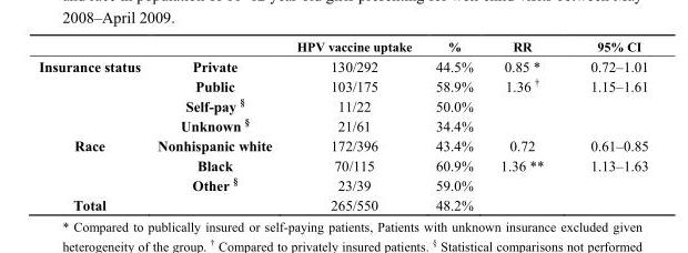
<table><thead><tr><td></td><td></td><td>HPV vaccine uptake</td><td>%</td><td>RR</td><td>95% CI</td></tr></thead><tbody><tr><td rowspan="4">Insurance status</td><td>Private</td><td>130/292</td><td>44.5%</td><td>0.85 *</td><td>0.72–1.01</td></tr><tr><td>Public</td><td>103/175</td><td>58.9%</td><td>1.36 <sup>†</sup></td><td>1.15–1.61</td></tr><tr><td>Self-pay <sup>§</sup></td><td>11/22</td><td>50.0%</td><td></td><td></td></tr><tr><td>Unknown <sup>§</sup></td><td>21/61</td><td>34.4%</td><td></td><td></td></tr><tr><td rowspan="3">Race</td><td>Nonhispanic white</td><td>172/396</td><td>43.4%</td><td>0.72</td><td>0.61–0.85</td></tr><tr><td>Black</td><td>70/115</td><td>60.9%</td><td>1.36 **</td><td>1.13–1.63</td></tr><tr><td>Other <sup>§</sup></td><td>23/39</td><td>59.0%</td><td></td><td></td></tr><tr><td>Total</td><td></td><td>265/550</td><td>48.2%</td><td></td><td></td></tr></tbody></table>